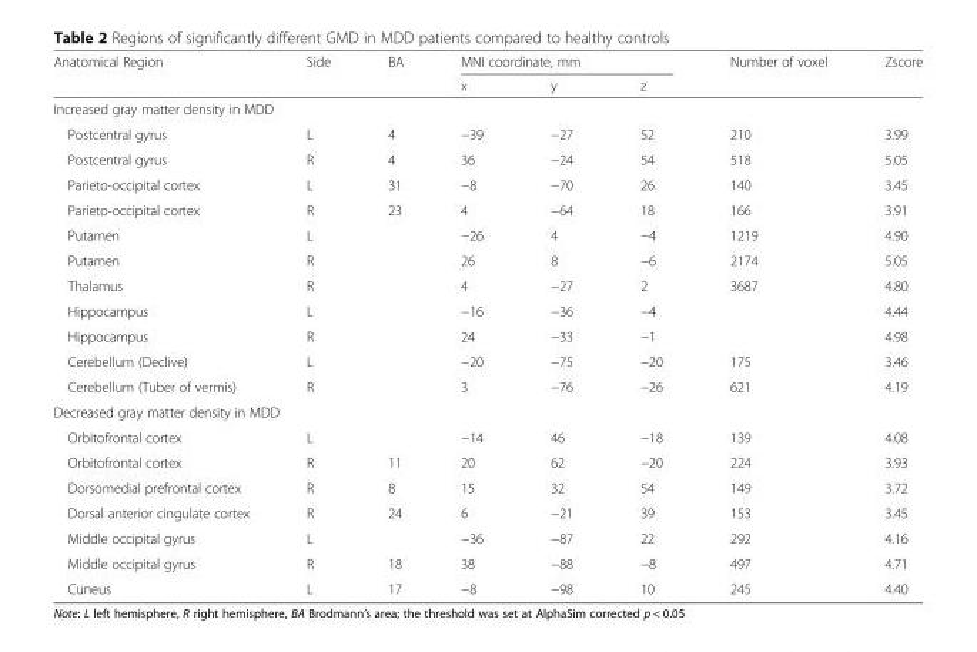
<table><thead><tr><td rowspan="2">Anatomical Region</td><td rowspan="2">Side</td><td rowspan="2">BA</td><td colspan="3">MNI coordinate, mm</td><td rowspan="2">Number of voxel</td><td rowspan="2">Zscore</td></tr><tr><td>x</td><td>y</td><td>z</td></tr></thead><tbody><tr><td colspan="8">Increased gray matter density in MDD</td></tr><tr><td>Postcentral gyrus</td><td>L</td><td>4</td><td>−39</td><td>−27</td><td>52</td><td>210</td><td>3.99</td></tr><tr><td>Postcentral gyrus</td><td>R</td><td>4</td><td>36</td><td>−24</td><td>54</td><td>518</td><td>5.05</td></tr><tr><td>Parieto-occipital cortex</td><td>L</td><td>31</td><td>−8</td><td>−70</td><td>26</td><td>140</td><td>3.45</td></tr><tr><td>Parieto-occipital cortex</td><td>R</td><td>23</td><td>4</td><td>−64</td><td>18</td><td>166</td><td>3.91</td></tr><tr><td>Putamen</td><td>L</td><td></td><td>−26</td><td>4</td><td>−4</td><td>1219</td><td>4.90</td></tr><tr><td>Putamen</td><td>R</td><td></td><td>26</td><td>8</td><td>−6</td><td>2174</td><td>5.05</td></tr><tr><td>Thalamus</td><td>R</td><td></td><td>4</td><td>−27</td><td>2</td><td>3687</td><td>4.80</td></tr><tr><td>Hippocampus</td><td>L</td><td></td><td>−16</td><td>−36</td><td>−4</td><td></td><td>4.44</td></tr><tr><td>Hippocampus</td><td>R</td><td></td><td>24</td><td>−33</td><td>−1</td><td></td><td>4.98</td></tr><tr><td>Cerebellum (Declive)</td><td>L</td><td></td><td>−20</td><td>−75</td><td>−20</td><td>175</td><td>3.46</td></tr><tr><td>Cerebellum (Tuber of vermis)</td><td>R</td><td></td><td>3</td><td>−76</td><td>−26</td><td>621</td><td>4.19</td></tr><tr><td colspan="8">Decreased gray matter density in MDD</td></tr><tr><td>Orbitofrontal cortex</td><td>L</td><td></td><td>−14</td><td>46</td><td>−18</td><td>139</td><td>4.08</td></tr><tr><td>Orbitofrontal cortex</td><td>R</td><td>11</td><td>20</td><td>62</td><td>−20</td><td>224</td><td>3.93</td></tr><tr><td>Dorsomedial prefrontal cortex</td><td>R</td><td>8</td><td>15</td><td>32</td><td>54</td><td>149</td><td>3.72</td></tr><tr><td>Dorsal anterior cingulate cortex</td><td>R</td><td>24</td><td>6</td><td>−21</td><td>39</td><td>153</td><td>3.45</td></tr><tr><td>Middle occipital gyrus</td><td>L</td><td></td><td>−36</td><td>−87</td><td>22</td><td>292</td><td>4.16</td></tr><tr><td>Middle occipital gyrus</td><td>R</td><td>18</td><td>38</td><td>−88</td><td>−8</td><td>497</td><td>4.71</td></tr><tr><td>Cuneus</td><td>L</td><td>17</td><td>−8</td><td>−98</td><td>10</td><td>245</td><td>4.40</td></tr></tbody></table>